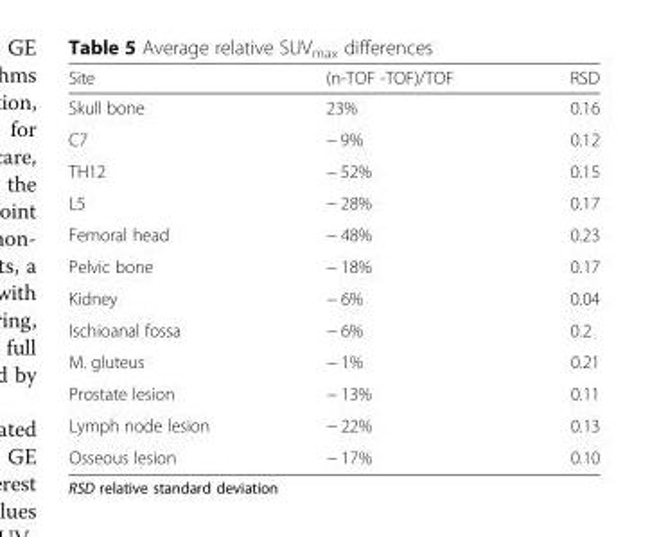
<table><thead><tr><td>Site</td><td>(n-TOF -TOF)/TOF</td><td>RSD</td></tr></thead><tbody><tr><td>Skull bone</td><td>23%</td><td>0.16</td></tr><tr><td>C7</td><td>− 9%</td><td>0.12</td></tr><tr><td>TH12</td><td>− 52%</td><td>0.15</td></tr><tr><td>L5</td><td>− 28%</td><td>0.17</td></tr><tr><td>Femoral head</td><td>− 48%</td><td>0.23</td></tr><tr><td>Pelvic bone</td><td>− 18%</td><td>0.17</td></tr><tr><td>Kidney</td><td>− 6%</td><td>0.04</td></tr><tr><td>Ischioanal fossa</td><td>− 6%</td><td>0.2</td></tr><tr><td>M. gluteus</td><td>− 1%</td><td>0.21</td></tr><tr><td>Prostate lesion</td><td>− 13%</td><td>0.11</td></tr><tr><td>Lymph node lesion</td><td>− 22%</td><td>0.13</td></tr><tr><td>Osseous lesion</td><td>− 17%</td><td>0.10</td></tr></tbody></table>